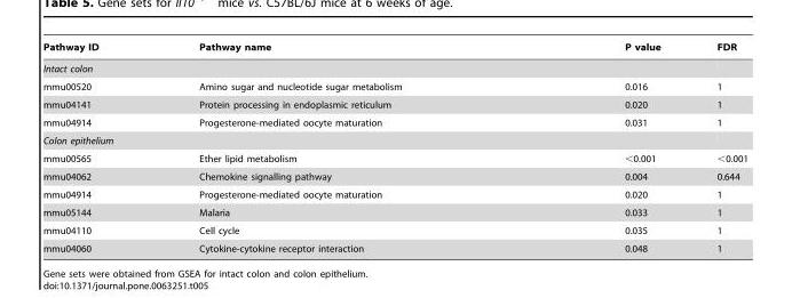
<table><thead><tr><td>Pathway ID</td><td>Pathway name</td><td>P value</td><td>FDR</td></tr></thead><tbody><tr><td colspan="4">Intact colon</td></tr><tr><td>mmu00520</td><td>Amino sugar and nucleotide sugar metabolism</td><td>0.016</td><td>1</td></tr><tr><td>mmu04141</td><td>Protein processing in endoplasmic reticulum</td><td>0.020</td><td>1</td></tr><tr><td>mmu04914</td><td>Progesterone-mediated oocyte maturation</td><td>0.031</td><td>1</td></tr><tr><td colspan="4">Colon epithelium</td></tr><tr><td>mmu00565</td><td>Ether lipid metabolism</td><td>&lt;0.001</td><td>&lt;0.001</td></tr><tr><td>mmu04062</td><td>Chemokine signalling pathway</td><td>0.004</td><td>0.644</td></tr><tr><td>mmu04914</td><td>Progesterone-mediated oocyte maturation</td><td>0.020</td><td>1</td></tr><tr><td>mmu05144</td><td>Malaria</td><td>0.033</td><td>1</td></tr><tr><td>mmu04110</td><td>Cell cycle</td><td>0.035</td><td>1</td></tr><tr><td>mmu04060</td><td>Cytokine-cytokine receptor interaction</td><td>0.048</td><td>1</td></tr></tbody></table>